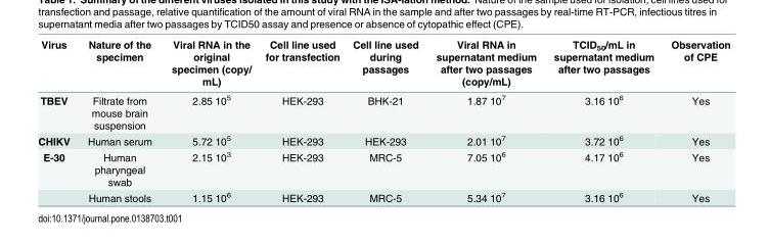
<table><thead><tr><td>Virus</td><td>Nature of the specimen</td><td>Viral RNA in the original specimen (copy/ mL)</td><td>Cell line used for transfection</td><td>Cell line used during passages</td><td>Viral RNA in supernatant medium after two passages (copy/mL)</td><td>TCID<sub>50</sub>/mL in supernatant medium after two passages</td><td>Observation of CPE</td></tr></thead><tbody><tr><td>TBEV</td><td>Filtrate from mouse brain suspension</td><td>2.85 10<sup>5</sup></td><td>HEK-293</td><td>BHK-21</td><td>1.87 10<sup>7</sup></td><td>3.16 10<sup>6</sup></td><td>Yes</td></tr><tr><td>CHIKV</td><td>Human serum</td><td>5.72 10<sup>5</sup></td><td>HEK-293</td><td>HEK-293</td><td>2.01 10<sup>7</sup></td><td>3.72 10<sup>6</sup></td><td>Yes</td></tr><tr><td rowspan="2">E-30</td><td>Human pharyngeal swab</td><td>2.15 10<sup>3</sup></td><td>HEK-293</td><td>MRC-5</td><td>7.05 10<sup>6</sup></td><td>4.17 10<sup>6</sup></td><td>Yes</td></tr><tr><td>Human stools</td><td>1.15 10<sup>6</sup></td><td>HEK-293</td><td>MRC-5</td><td>5.34 10<sup>7</sup></td><td>3.16 10<sup>6</sup></td><td>Yes</td></tr></tbody></table>